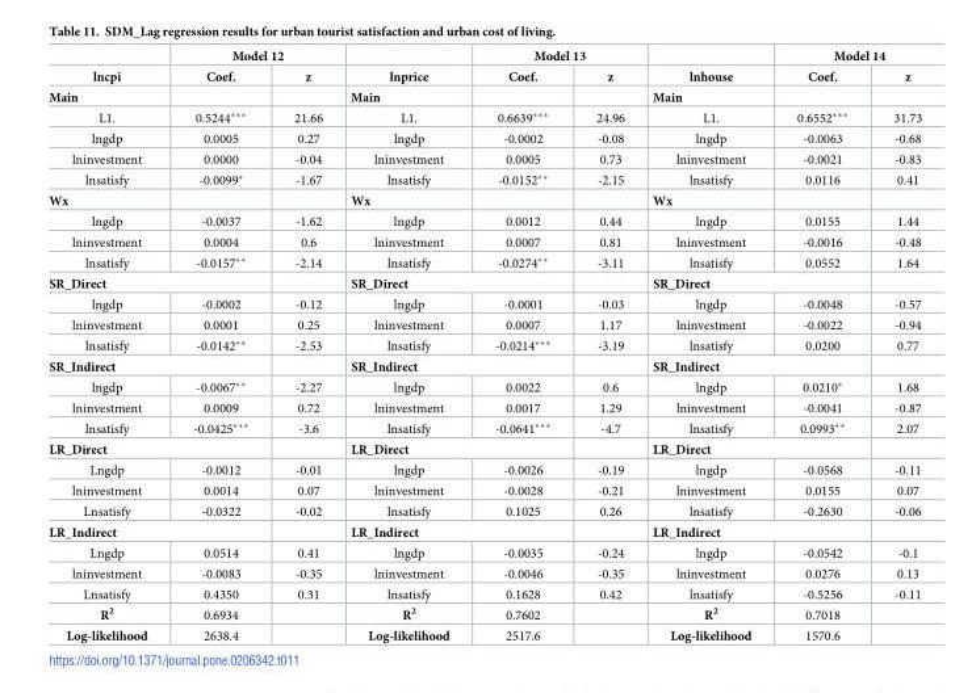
<table><thead><tr><td rowspan="2">lncpi</td><td colspan="2">Model 12</td><td rowspan="2">lnprice</td><td colspan="2">Model 13</td><td rowspan="2">lnhouse</td><td colspan="2">Model 14</td></tr><tr><td>Coef.</td><td>z</td><td>Coef.</td><td>z</td><td>Coef.</td><td>z</td></tr></thead><tbody><tr><td>Main</td><td></td><td></td><td>Main</td><td></td><td></td><td>Main</td><td></td><td></td></tr><tr><td>L1.</td><td>0.5244***</td><td>21.66</td><td>L1.</td><td>0.6639***</td><td>24.96</td><td>L1.</td><td>0.6552***</td><td>31.73</td></tr><tr><td>lngdp</td><td>0.0005</td><td>0.27</td><td>lngdp</td><td>-0.0002</td><td>-0.08</td><td>lngdp</td><td>-0.0063</td><td>-0.68</td></tr><tr><td>lninvestment</td><td>0.0000</td><td>-0.04</td><td>lninvestment</td><td>0.0005</td><td>0.73</td><td>lninvestment</td><td>-0.0021</td><td>-0.83</td></tr><tr><td>lnsatisfy</td><td>-0.0099*</td><td>-1.67</td><td>lnsatisfy</td><td>-0.0152**</td><td>-2.15</td><td>lnsatisfy</td><td>0.0116</td><td>0.41</td></tr><tr><td>Wx</td><td></td><td></td><td>Wx</td><td></td><td></td><td>Wx</td><td></td><td></td></tr><tr><td>lngdp</td><td>-0.0037</td><td>-1.62</td><td>lngdp</td><td>0.0012</td><td>0.44</td><td>lngdp</td><td>0.0155</td><td>1.44</td></tr><tr><td>lninvestment</td><td>0.0004</td><td>0.6</td><td>lninvestment</td><td>0.0007</td><td>0.81</td><td>lninvestment</td><td>-0.0016</td><td>-0.48</td></tr><tr><td>lnsatisfy</td><td>-0.0157**</td><td>-2.14</td><td>lnsatisfy</td><td>-0.0274**</td><td>-3.11</td><td>lnsatisfy</td><td>0.0552</td><td>1.64</td></tr><tr><td colspan="2">SR_Direct</td><td></td><td colspan="2">SR_Direct</td><td></td><td colspan="2">SR_Direct</td><td></td></tr><tr><td>lngdp</td><td>-0.0002</td><td>-0.12</td><td>lngdp</td><td>-0.0001</td><td>-0.03</td><td>lngdp</td><td>-0.0048</td><td>-0.57</td></tr><tr><td>lninvestment</td><td>0.0001</td><td>0.25</td><td>lninvestment</td><td>0.0007</td><td>1.17</td><td>lninvestment</td><td>-0.0022</td><td>-0.94</td></tr><tr><td>lnsatisfy</td><td>-0.0142**</td><td>-2.53</td><td>lnsatisfy</td><td>-0.0214***</td><td>-3.19</td><td>lnsatisfy</td><td>0.0200</td><td>0.77</td></tr><tr><td colspan="2">SR_Indirect</td><td></td><td colspan="2">SR_Indirect</td><td></td><td colspan="2">SR_Indirect</td><td></td></tr><tr><td>lngdp</td><td>-0.0067**</td><td>-2.27</td><td>lngdp</td><td>0.0022</td><td>0.6</td><td>lngdp</td><td>0.0210*</td><td>1.68</td></tr><tr><td>lninvestment</td><td>0.0009</td><td>0.72</td><td>lninvestment</td><td>0.0017</td><td>1.29</td><td>lninvestment</td><td>-0.0041</td><td>-0.87</td></tr><tr><td>lnsatisfy</td><td>-0.0425***</td><td>-3.6</td><td>lnsatisfy</td><td>-0.0641***</td><td>-4.7</td><td>lnsatisfy</td><td>0.0993**</td><td>2.07</td></tr><tr><td colspan="2">LR_Direct</td><td></td><td colspan="2">LR_Direct</td><td></td><td colspan="2">LR_Direct</td><td></td></tr><tr><td>Lngdp</td><td>-0.0012</td><td>-0.01</td><td>lngdp</td><td>-0.0026</td><td>-0.19</td><td>lngdp</td><td>-0.0568</td><td>-0.11</td></tr><tr><td>lninvestment</td><td>0.0014</td><td>0.07</td><td>lninvestment</td><td>-0.0028</td><td>-0.21</td><td>lninvestment</td><td>0.0155</td><td>0.07</td></tr><tr><td>Lnsatisfy</td><td>-0.0322</td><td>-0.02</td><td>lnsatisfy</td><td>0.1025</td><td>0.26</td><td>lnsatisfy</td><td>-0.2630</td><td>-0.06</td></tr><tr><td colspan="2">LR_Indirect</td><td></td><td colspan="2">LR_Indirect</td><td></td><td colspan="2">LR_Indirect</td><td></td></tr><tr><td>Lngdp</td><td>0.0514</td><td>0.41</td><td>lngdp</td><td>-0.0035</td><td>-0.24</td><td>lngdp</td><td>-0.0542</td><td>-0.1</td></tr><tr><td>lninvestment</td><td>-0.0083</td><td>-0.35</td><td>lninvestment</td><td>-0.0046</td><td>-0.35</td><td>lninvestment</td><td>0.0276</td><td>0.13</td></tr><tr><td>Lnsatisfy</td><td>0.4350</td><td>0.31</td><td>lnsatisfy</td><td>0.1628</td><td>0.42</td><td>lnsatisfy</td><td>-0.5256</td><td>-0.11</td></tr><tr><td>R<sup>2</sup></td><td>0.6934</td><td></td><td>R<sup>2</sup></td><td>0.7602</td><td></td><td>R<sup>2</sup></td><td>0.7018</td><td></td></tr><tr><td>Log-likelihood</td><td>2638.4</td><td></td><td>Log-likelihood</td><td>2517.6</td><td></td><td>Log-likelihood</td><td>1570.6</td><td></td></tr></tbody></table>